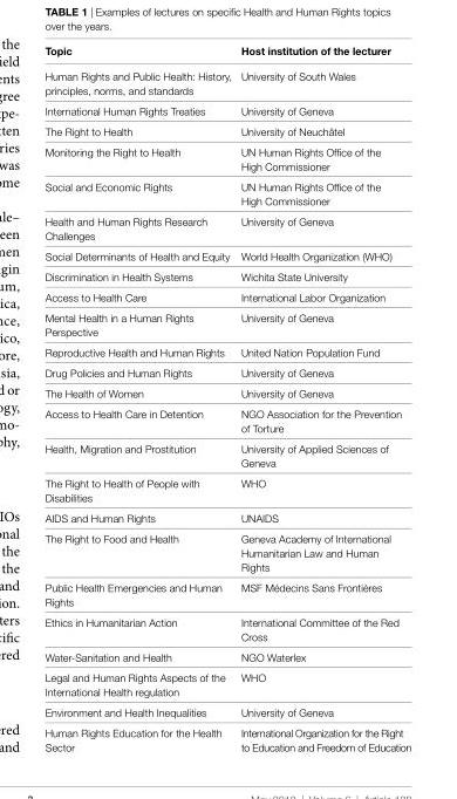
<table><thead><tr><td>topic</td><td>Host institution of the lecturer</td></tr></thead><tbody><tr><td>Human Rights and Public Health: History, principles, norms, and standards</td><td>University of South Wales</td></tr><tr><td>International Human Rights Treaties</td><td>University of Geneva</td></tr><tr><td>The Right to Health</td><td>University of Neuchâtel</td></tr><tr><td>Monitoring the Right to Health</td><td>UN Human Rights Office of the High Commissioner</td></tr><tr><td>Social and Economic Rights</td><td>UN Human Rights Office of the High Commissioner</td></tr><tr><td>Health and Human Rights Research Challenges</td><td>University of Geneva</td></tr><tr><td>Social Determinants of Health and Equity</td><td>World Health Organization (WHO)</td></tr><tr><td>Discrimination in Health Systems</td><td>Wichita State University</td></tr><tr><td>Access to Health Care</td><td>International Labor Organization</td></tr><tr><td>Mental Health in a Human Rights Perspective</td><td>University of Geneva</td></tr><tr><td>Reproductive Health and Human Rights</td><td>United Nation Population Fund</td></tr><tr><td>Drug Policies and Human Rights</td><td>University of Geneva</td></tr><tr><td>The Health of Women</td><td>University of Geneva</td></tr><tr><td>Access to Health Care in Detention</td><td>NGO Association for the Prevention of Torture</td></tr><tr><td>Health, Migration and Prostitution</td><td>University of Applied Sciences of Geneva</td></tr><tr><td>The Right to Health of People with Disabilities</td><td>WHO</td></tr><tr><td>AIDS and Human Rights</td><td>UNAIDS</td></tr><tr><td>The Right to Food and Health</td><td>Geneva Academy of International Humanitarian Law and Human Rights</td></tr><tr><td>Public Health Emergencies and Human Rights</td><td>MSF Médecins Sans Frontières</td></tr><tr><td>Ethics in Humanitarian Action</td><td>International Committee of the Red Cross</td></tr><tr><td>Water-Sanitation and Health</td><td>NGO Waterlex</td></tr><tr><td>Legal and Human Rights Aspects of the International Health regulation</td><td>WHO</td></tr><tr><td>Environment and Health Inequalities</td><td>University of Geneva</td></tr><tr><td>Human Rights Education for the Health Sector</td><td>International Organization for the Right to Education and Freedom of Education</td></tr></tbody></table>